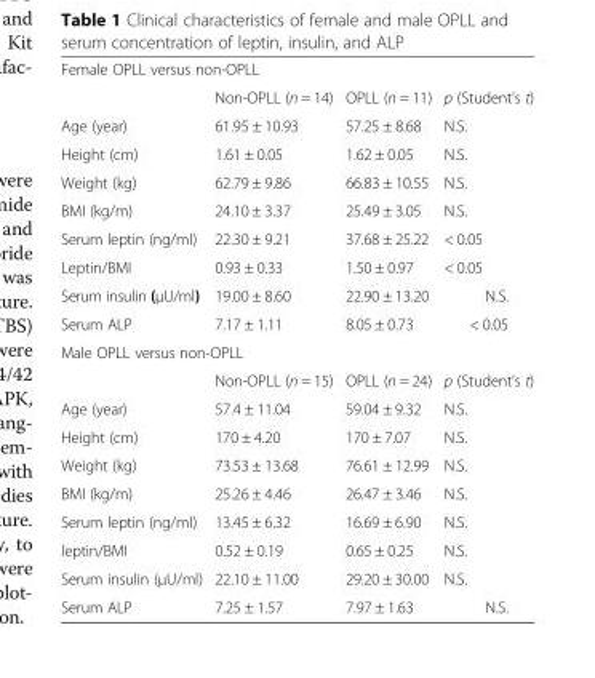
<table><tbody><tr><td colspan="4">Female OPLL versus non-OPLL</td></tr><tr><td></td><td>Non-OPLL (n = 14)</td><td>OPLL (n = 11)</td><td>p (Student’s t)</td></tr><tr><td>Age (year)</td><td>61.95 ± 10.93</td><td>57.25 ± 8.68</td><td>N.S.</td></tr><tr><td>Height (cm)</td><td>1.61 ± 0.05</td><td>1.62 ± 0.05</td><td>N.S.</td></tr><tr><td>Weight (kg)</td><td>62.79 ± 9.86</td><td>66.83 ± 10.55</td><td>N.S.</td></tr><tr><td>BMI (kg/m)</td><td>24.10 ± 3.37</td><td>25.49 ± 3.05</td><td>N.S.</td></tr><tr><td>Serum leptin (ng/ml)</td><td>22.30 ± 9.21</td><td>37.68 ± 25.22</td><td>&lt; 0.05</td></tr><tr><td>Leptin/BMI</td><td>0.93 ± 0.33</td><td>1.50 ± 0.97</td><td>&lt; 0.05</td></tr><tr><td>Serum insulin (μU/ml)</td><td>19.00 ± 8.60</td><td>22.90 ± 13.20</td><td>N.S.</td></tr><tr><td>Serum ALP</td><td>7.17 ± 1.11</td><td>8.05 ± 0.73</td><td>&lt; 0.05</td></tr><tr><td colspan="4">Male OPLL versus non-OPLL</td></tr><tr><td></td><td>Non-OPLL (n = 15)</td><td>OPLL (n = 24)</td><td>p (Student’s t)</td></tr><tr><td>Age (year)</td><td>57.4 ± 11.04</td><td>59.04 ± 9.32</td><td>N.S.</td></tr><tr><td>Height (cm)</td><td>170 ± 4.20</td><td>170 ± 7.07</td><td>N.S.</td></tr><tr><td>Weight (kg)</td><td>73.53 ± 13.68</td><td>76.61 ± 12.99</td><td>N.S.</td></tr><tr><td>BMI (kg/m)</td><td>25.26 ± 4.46</td><td>26.47 ± 3.46</td><td>N.S.</td></tr><tr><td>Serum leptin (ng/ml)</td><td>13.45 ± 6.32</td><td>16.69 ± 6.90</td><td>N.S.</td></tr><tr><td>leptin/BMI</td><td>0.52 ± 0.19</td><td>0.65 ± 0.25</td><td>N.S.</td></tr><tr><td>Serum insulin (μU/ml)</td><td>22.10 ± 11.00</td><td>29.20 ± 30.00</td><td>N.S.</td></tr><tr><td>Serum ALP</td><td>7.25 ± 1.57</td><td>7.97 ± 1.63</td><td>N.S.</td></tr></tbody></table>